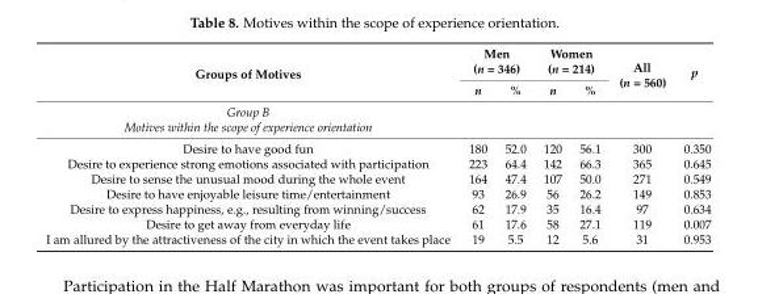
<table><thead><tr><td rowspan="2">Groups of Motives</td><td colspan="2">Men (n = 346)</td><td colspan="2">Women (n = 214)</td><td rowspan="2">All (n = 560)</td><td rowspan="2">p</td></tr><tr><td>n</td><td>%</td><td>n</td><td>%</td></tr></thead><tbody><tr><td colspan="7">Group B Motives within the scope of experience orientation</td></tr><tr><td>Desire to have good fun</td><td>180</td><td>52.0</td><td>120</td><td>56.1</td><td>300</td><td>0.350</td></tr><tr><td>Desire to experience strong emotions associated with participation</td><td>223</td><td>64.4</td><td>142</td><td>66.3</td><td>365</td><td>0.645</td></tr><tr><td>Desire to sense the unusual mood during the whole event</td><td>164</td><td>47.4</td><td>107</td><td>50.0</td><td>271</td><td>0.549</td></tr><tr><td>Desire to have enjoyable leisure time/entertainment</td><td>93</td><td>26.9</td><td>56</td><td>26.2</td><td>149</td><td>0.853</td></tr><tr><td>Desire to express happiness, e.g., resulting from winning/success</td><td>62</td><td>17.9</td><td>35</td><td>16.4</td><td>97</td><td>0.634</td></tr><tr><td>Desire to get away from everyday life</td><td>61</td><td>17.6</td><td>58</td><td>27.1</td><td>119</td><td>0.007</td></tr><tr><td>I am allured by the attractiveness of the city in which the event takes place</td><td>19</td><td>5.5</td><td>12</td><td>5.6</td><td>31</td><td>0.953</td></tr></tbody></table>